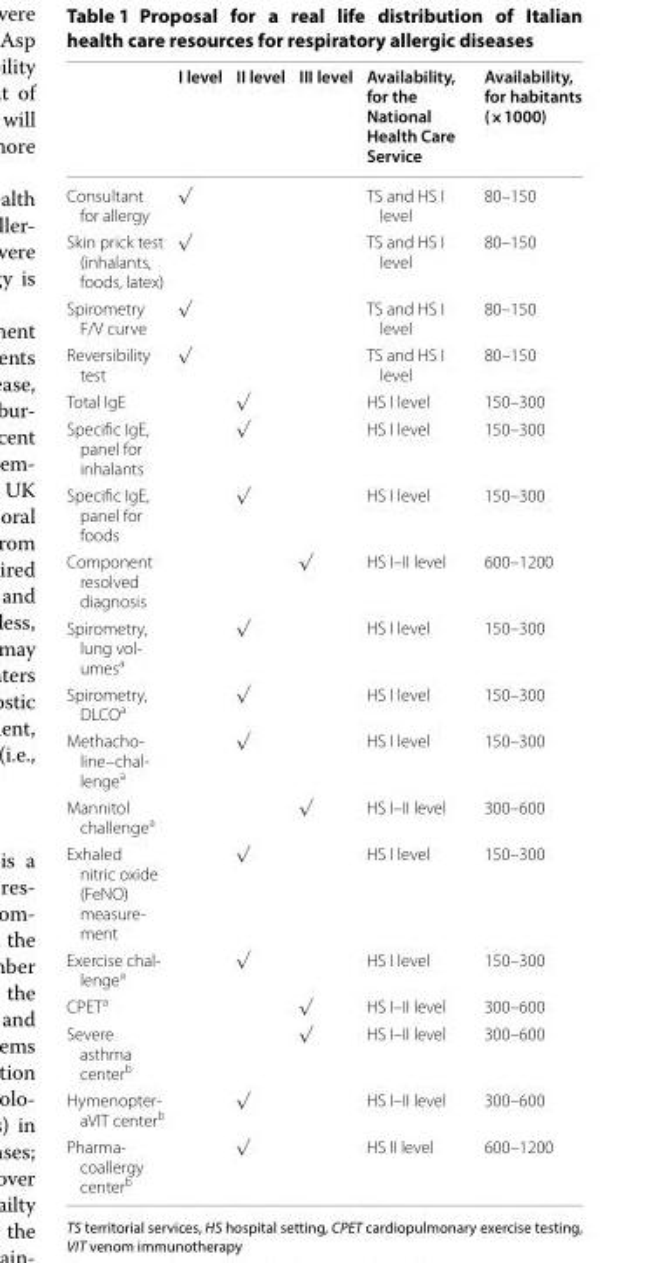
<table><thead><tr><td></td><td>I level</td><td>II level</td><td>III level</td><td>Availability, for the National Health Care Service</td><td>Availability, for habitants (×1000)</td></tr></thead><tbody><tr><td>Consultant for allergy</td><td>√</td><td></td><td></td><td>TS and HS I level</td><td>80–150</td></tr><tr><td>Skin prick test (inhalants, foods, latex)</td><td>√</td><td></td><td></td><td>TS and HS I level</td><td>80–150</td></tr><tr><td>Spirometry F/V curve</td><td>√</td><td></td><td></td><td>TS and HS I level</td><td>80–150</td></tr><tr><td>Reversibility test</td><td>√</td><td></td><td></td><td>TS and HS I level</td><td>80–150</td></tr><tr><td>Total IgE</td><td></td><td>√</td><td></td><td>HS I level</td><td>150–300</td></tr><tr><td>Specific IgE, panel for inhalants</td><td></td><td>√</td><td></td><td>HS I level</td><td>150–300</td></tr><tr><td>Specific IgE, panel for foods</td><td></td><td>√</td><td></td><td>HS I level</td><td>150–300</td></tr><tr><td>Component resolved diagnosis</td><td></td><td></td><td>√</td><td>HS I–II level</td><td>600–1200</td></tr><tr><td>Spirometry, lung vol‑ umesa</td><td></td><td>√</td><td></td><td>HS I level</td><td>150–300</td></tr><tr><td>Spirometry, DLCO<sup>a</sup></td><td></td><td>√</td><td></td><td>HS I level</td><td>150–300</td></tr><tr><td>Methacho‑ line–chal‑ lengea</td><td></td><td>√</td><td></td><td>HS I level</td><td>150–300</td></tr><tr><td>Mannitol challenge<sup>a</sup></td><td></td><td></td><td>√</td><td>HS I–II level</td><td>300–600</td></tr><tr><td>Exhaled nitric oxide (FeNO) measure‑ ment</td><td></td><td>√</td><td></td><td>HS I level</td><td>150–300</td></tr><tr><td>Exercise chal‑ lengea</td><td></td><td>√</td><td></td><td>HS I level</td><td>150–300</td></tr><tr><td>CPET<sup>a</sup></td><td></td><td></td><td>√</td><td>HS I–II level</td><td>300–600</td></tr><tr><td>Severe asthma center<sup>b</sup></td><td></td><td></td><td>√</td><td>HS I–II level</td><td>300–600</td></tr><tr><td>Hymenopter‑ aVIT centerb</td><td></td><td>√</td><td></td><td>HS I–II level</td><td>300–600</td></tr><tr><td>Pharma‑ coallergy centerb</td><td></td><td>√</td><td></td><td>HS II level</td><td>600–1200</td></tr></tbody></table>